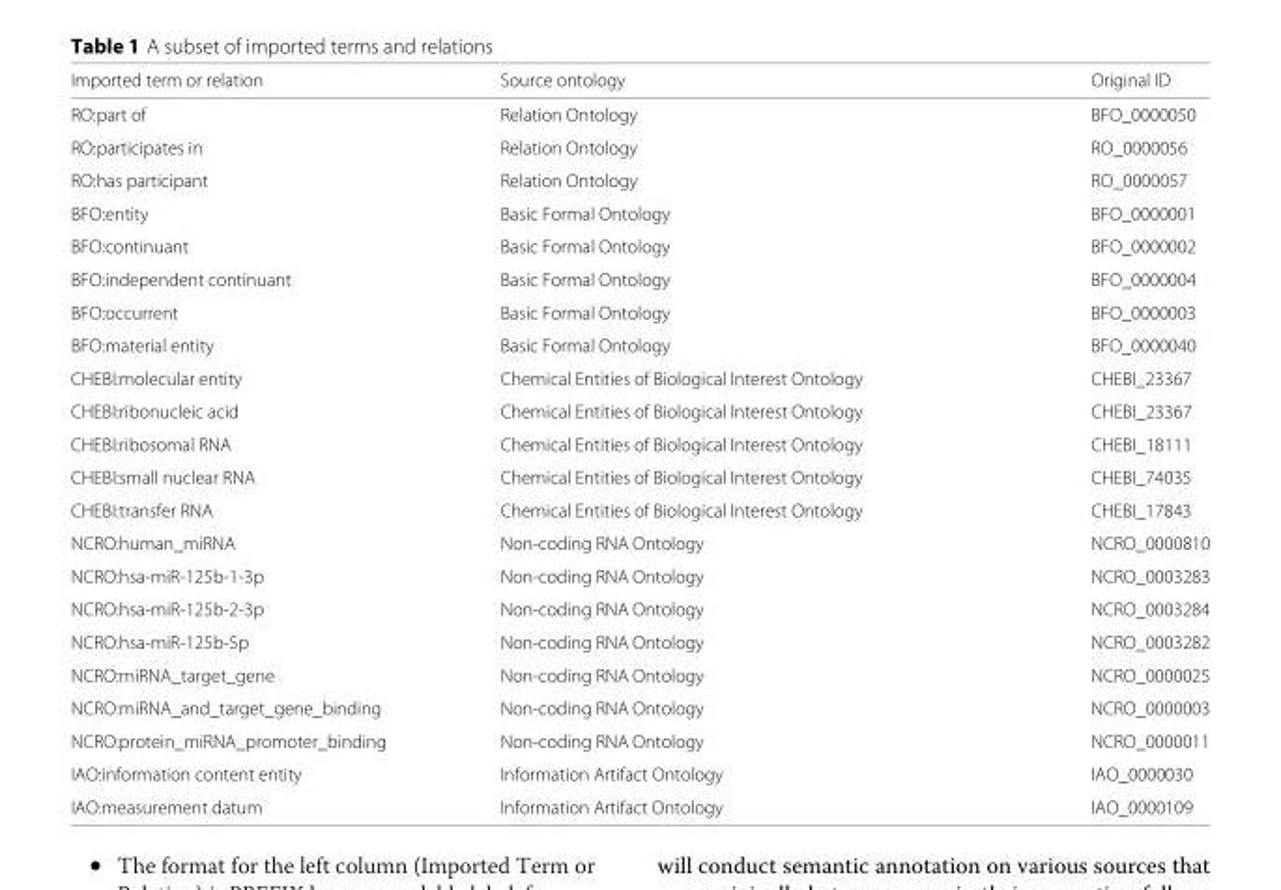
<table><thead><tr><td>Imported term or relation</td><td>Source ontology</td><td>Original ID</td></tr></thead><tbody><tr><td>RO:part of</td><td>Relation Ontology</td><td>BFO_0000050</td></tr><tr><td>RO:participates in</td><td>Relation Ontology</td><td>RO_0000056</td></tr><tr><td>RO:has participant</td><td>Relation Ontology</td><td>RO_0000057</td></tr><tr><td>BFO:entity</td><td>Basic Formal Ontology</td><td>BFO_0000001</td></tr><tr><td>BFO:continuant</td><td>Basic Formal Ontology</td><td>BFO_0000002</td></tr><tr><td>BFO:independent continuant</td><td>Basic Formal Ontology</td><td>BFO_0000004</td></tr><tr><td>BFO:occurrent</td><td>Basic Formal Ontology</td><td>BFO_0000003</td></tr><tr><td>BFO:material entity</td><td>Basic Formal Ontology</td><td>BFO_0000040</td></tr><tr><td>CHEBI:molecular entity</td><td>Chemical Entities of Biological Interest Ontology</td><td>CHEBI_23367</td></tr><tr><td>CHEBI:ribonucleic acid</td><td>Chemical Entities of Biological Interest Ontology</td><td>CHEBI_23367</td></tr><tr><td>CHEBI:ribosomal RNA</td><td>Chemical Entities of Biological Interest Ontology</td><td>CHEBI_18111</td></tr><tr><td>CHEBI:small nuclear RNA</td><td>Chemical Entities of Biological Interest Ontology</td><td>CHEBI_74035</td></tr><tr><td>CHEBI:transfer RNA</td><td>Chemical Entities of Biological Interest Ontology</td><td>CHEBI_17843</td></tr><tr><td>NCRO:human_miRNA</td><td>Non-coding RNA Ontology</td><td>NCRO_0000810</td></tr><tr><td>NCRO:hsa-miR-125b-1-3p</td><td>Non-coding RNA Ontology</td><td>NCRO_0003283</td></tr><tr><td>NCRO:hsa-miR-125b-2-3p</td><td>Non-coding RNA Ontology</td><td>NCRO_0003284</td></tr><tr><td>NCRO:hsa-miR-125b-5p</td><td>Non-coding RNA Ontology</td><td>NCRO_0003282</td></tr><tr><td>NCRO:miRNA_target_gene</td><td>Non-coding RNA Ontology</td><td>NCRO_0000025</td></tr><tr><td>NCRO:miRNA_and_target_gene_binding</td><td>Non-coding RNA Ontology</td><td>NCRO_0000003</td></tr><tr><td>NCRO:protein_miRNA_promoter_binding</td><td>Non-coding RNA Ontology</td><td>NCRO_0000011</td></tr><tr><td>IAO:information content entity</td><td>Information Artifact Ontology</td><td>IAO_0000030</td></tr><tr><td>IAO:measurement datum</td><td>Information Artifact Ontology</td><td>IAO_0000109</td></tr></tbody></table>